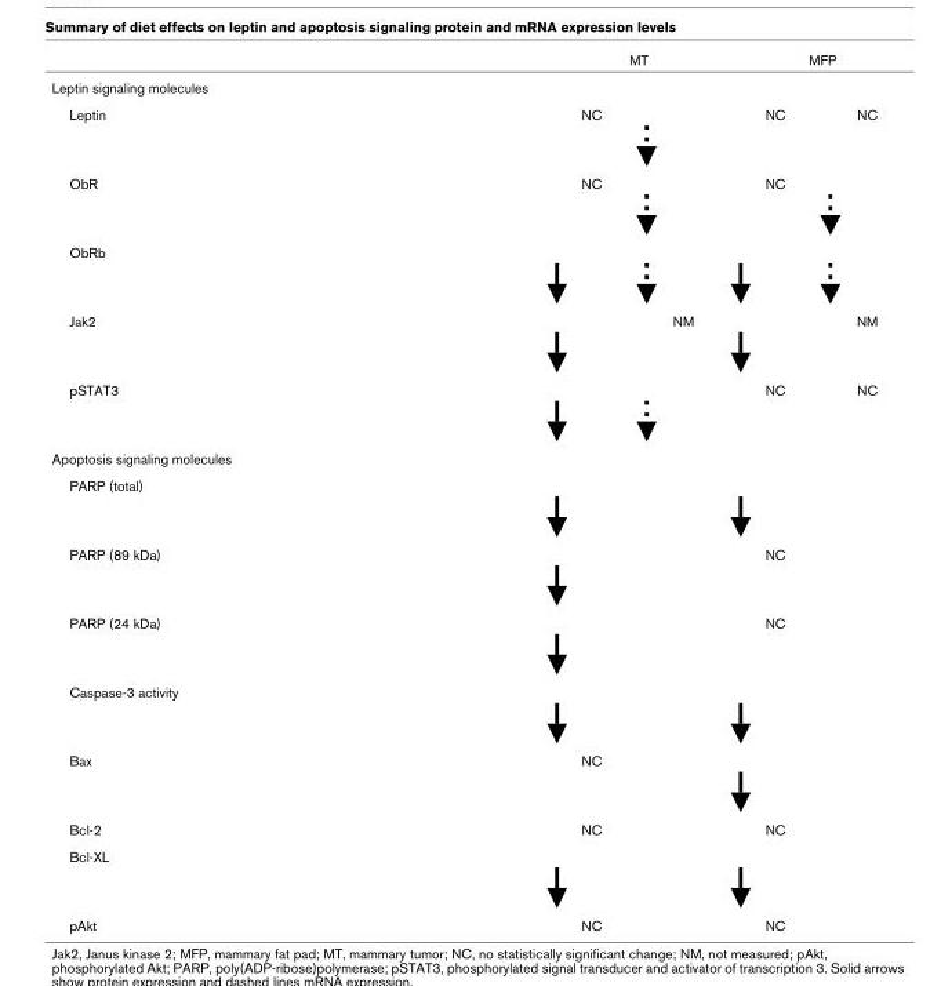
<table><thead><tr><td rowspan="2">Leptin signaling molecules</td><td colspan="2">MT</td><td colspan="2">MFP</td></tr><tr><td></td><td></td><td></td><td></td></tr></thead><tbody><tr><td>Leptin</td><td>NC</td><td></td><td>NC</td><td>NC</td></tr><tr><td>ObR</td><td>NC</td><td></td><td>NC</td><td></td></tr><tr><td colspan="5">ObRb</td></tr><tr><td>Jak2</td><td></td><td>NM</td><td></td><td>NM</td></tr><tr><td>pSTAT3</td><td></td><td></td><td>NC</td><td>NC</td></tr><tr><td colspan="5">Apoptosis signaling molecules</td></tr><tr><td colspan="5">PARP (total)</td></tr><tr><td>PARP (89 kDa)</td><td></td><td></td><td>NC</td><td></td></tr><tr><td>PARP (24 kDa)</td><td></td><td></td><td>NC</td><td></td></tr><tr><td colspan="5">Caspase-3 activity</td></tr><tr><td>Bax</td><td>NC</td><td></td><td></td><td></td></tr><tr><td>Bcl-2</td><td>NC</td><td></td><td>NC</td><td></td></tr><tr><td colspan="5">Bcl-XL</td></tr><tr><td>pAkt</td><td>NC</td><td></td><td>NC</td><td></td></tr></tbody></table>